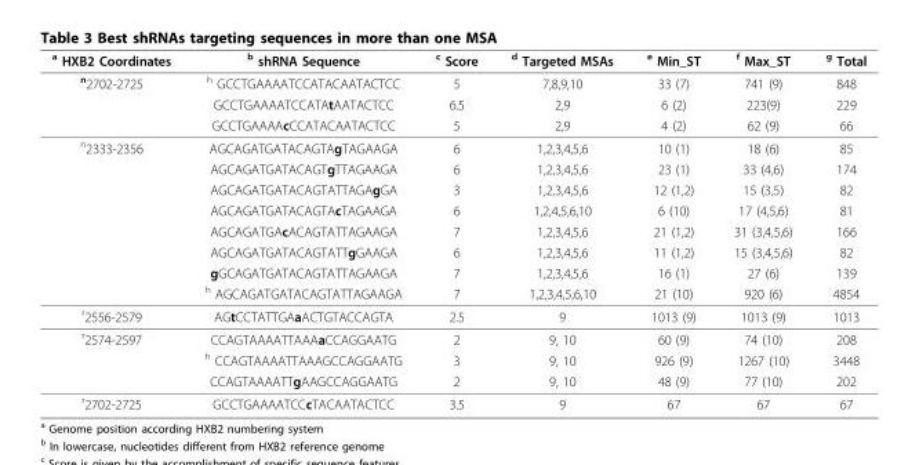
<table><thead><tr><td><sup>a</sup> HXB2 Coordinates</td><td><sup>b</sup> shRNA Sequence</td><td><sup>c</sup> Score</td><td><sup>d</sup> Targeted MSAs</td><td><sup>e</sup> Min_ST</td><td><sup>f</sup> Max_ST</td><td><sup>g</sup> Total</td></tr></thead><tbody><tr><td rowspan="3"><sup>n</sup>2702-2725</td><td><sup>h</sup> GCCTGAAAATCCATACAATACTCC</td><td>5</td><td>7,8,9,10</td><td>33 (7)</td><td>741 (9)</td><td>848</td></tr><tr><td>GCCTGAAAATCCATAtAATACTCC</td><td>6.5</td><td>2,9</td><td>6 (2)</td><td>223(9)</td><td>229</td></tr><tr><td>GCCTGAAAAcCCATACAATACTCC</td><td>5</td><td>2,9</td><td>4 (2)</td><td>62 (9)</td><td>66</td></tr><tr><td rowspan="8"><sup>n</sup>2333-2356</td><td>AGCAGATGATACAGTAgTAGAAGA</td><td>6</td><td>1,2,3,4,5,6</td><td>10 (1)</td><td>18 (6)</td><td>85</td></tr><tr><td>AGCAGATGATACAGTgTTAGAAGA</td><td>6</td><td>1,2,3,4,5,6</td><td>23 (1)</td><td>33 (4,6)</td><td>174</td></tr><tr><td>AGCAGATGATACAGTATTAGAgGA</td><td>3</td><td>1,2,3,4,5,6</td><td>12 (1,2)</td><td>15 (3,5)</td><td>82</td></tr><tr><td>AGCAGATGATACAGTAcTAGAAGA</td><td>6</td><td>1,2,4,5,6,10</td><td>6 (10)</td><td>17 (4,5,6)</td><td>81</td></tr><tr><td>AGCAGATGAcACAGTATTAGAAGA</td><td>7</td><td>1,2,3,4,5,6</td><td>21 (1,2)</td><td>31 (3,4,5,6)</td><td>166</td></tr><tr><td>AGCAGATGATACAGTATTgGAAGA</td><td>6</td><td>1,2,3,4,5,6</td><td>11 (1,2)</td><td>15 (3,4,5,6)</td><td>82</td></tr><tr><td>gGCAGATGATACAGTATTAGAAGA</td><td>7</td><td>1,2,3,4,5,6</td><td>16 (1)</td><td>27 (6)</td><td>139</td></tr><tr><td><sup>h</sup> AGCAGATGATACAGTATTAGAAGA</td><td>7</td><td>1,2,3,4,5,6,10</td><td>21 (10)</td><td>920 (6)</td><td>4854</td></tr><tr><td><sup>r</sup>2556-2579</td><td>AGtCCTATTGAaACTGTACCAGTA</td><td>2.5</td><td>9</td><td>1013 (9)</td><td>1013 (9)</td><td>1013</td></tr><tr><td rowspan="3"><sup>r</sup>2574-2597</td><td>CCAGTAAAATTAAAaCCAGGAATG</td><td>2</td><td>9, 10</td><td>60 (9)</td><td>74 (10)</td><td>208</td></tr><tr><td><sup>h</sup> CCAGTAAAATTAAAGCCAGGAATG</td><td>3</td><td>9, 10</td><td>926 (9)</td><td>1267 (10)</td><td>3448</td></tr><tr><td>CCAGTAAAATTgAAGCCAGGAATG</td><td>2</td><td>9, 10</td><td>48 (9)</td><td>77 (10)</td><td>202</td></tr><tr><td><sup>r</sup>2702-2725</td><td>GCCTGAAAATCCcTACAATACTCC</td><td>3.5</td><td>9</td><td>67</td><td>67</td><td>67</td></tr></tbody></table>